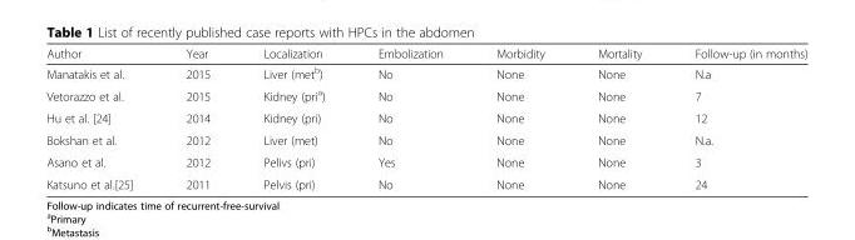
<table><thead><tr><td>Author</td><td>Year</td><td>Localization</td><td>Embolization</td><td>Morbidity</td><td>Mortality</td><td>Follow-up (in months)</td></tr></thead><tbody><tr><td>Manatakis et al.</td><td>2015</td><td>Liver (met<sup>b</sup>)</td><td>No</td><td>None</td><td>None</td><td>N.a</td></tr><tr><td>Vetorazzo et al.</td><td>2015</td><td>Kidney (pri<sup>a</sup>)</td><td>No</td><td>None</td><td>None</td><td>7</td></tr><tr><td>Hu et al. [24]</td><td>2014</td><td>Kidney (pri)</td><td>No</td><td>None</td><td>None</td><td>12</td></tr><tr><td>Bokshan et al.</td><td>2012</td><td>Liver (met)</td><td>No</td><td>None</td><td>None</td><td>N.a.</td></tr><tr><td>Asano et al.</td><td>2012</td><td>Pelivs (pri)</td><td>Yes</td><td>None</td><td>None</td><td>3</td></tr><tr><td>Katsuno et al.[25]</td><td>2011</td><td>Pelvis (pri)</td><td>No</td><td>None</td><td>None</td><td>24</td></tr></tbody></table>